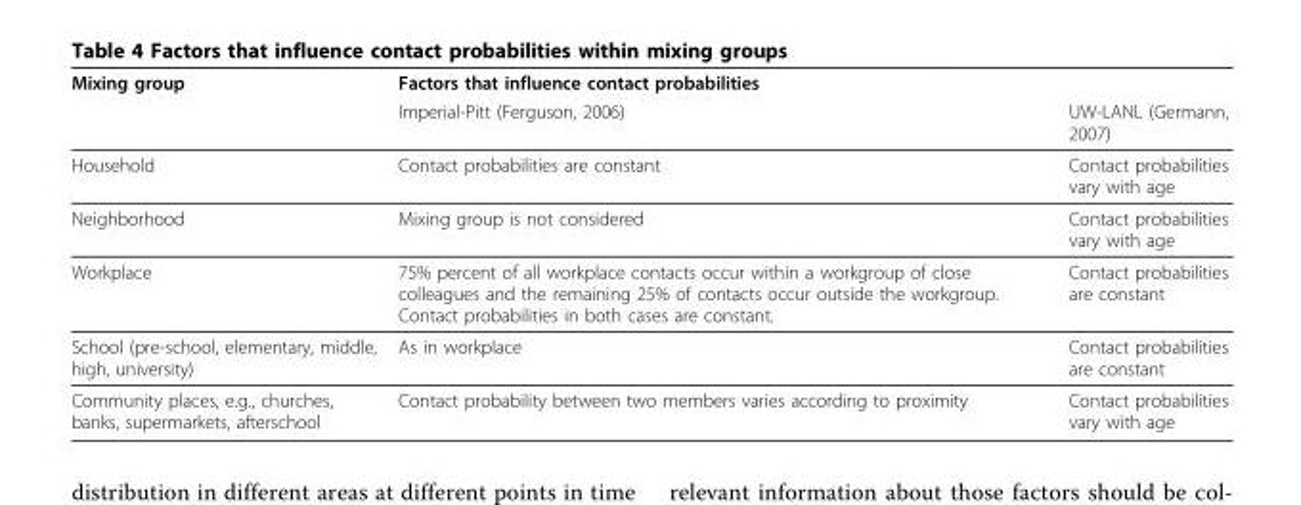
<table><thead><tr><td rowspan="2">Mixing group</td><td colspan="2">Factors that influence contact probabilities</td></tr><tr><td>Imperial-Pitt (Ferguson, 2006)</td><td>UW-LANL (Germann, 2007)</td></tr></thead><tbody><tr><td>Household</td><td>Contact probabilities are constant</td><td>Contact probabilities vary with age</td></tr><tr><td>Neighborhood</td><td>Mixing group is not considered</td><td>Contact probabilities vary with age</td></tr><tr><td>Workplace</td><td>75% percent of all workplace contacts occur within a workgroup of close colleagues and the remaining 25% of contacts occur outside the workgroup. Contact probabilities in both cases are constant.</td><td>Contact probabilities are constant</td></tr><tr><td>School (pre-school, elementary, middle, high, university)</td><td>As in workplace</td><td>Contact probabilities are constant</td></tr><tr><td>Community places, e.g., churches, banks, supermarkets, afterschool</td><td>Contact probability between two members varies according to proximity</td><td>Contact probabilities vary with age</td></tr></tbody></table>